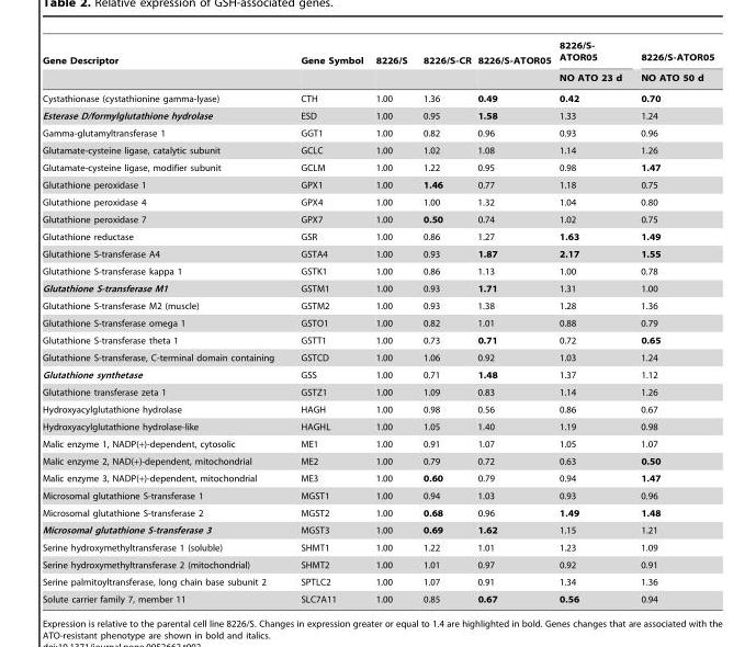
<table><thead><tr><td rowspan="2">Gene Descriptor</td><td rowspan="2">Gene Symbol</td><td rowspan="2">8226/S</td><td rowspan="2">8226/S-CR</td><td rowspan="2">8226/S-ATOR05</td><td rowspan="2">8226/S- ATOR05 NO ATO 23 d</td><td rowspan="2">8226/S-ATOR05 NO ATO 50 d</td></tr><tr></tr></thead><tbody><tr><td>Cystathionase (cystathionine gamma-lyase)</td><td>CTH</td><td>1.00</td><td>1.36</td><td>0.49</td><td>0.42</td><td>0.70</td></tr><tr><td>Esterase D/formylglutathione hydrolase</td><td>ESD</td><td>1.00</td><td>0.95</td><td>1.58</td><td>1.33</td><td>1.24</td></tr><tr><td>Gamma-glutamyltransferase 1</td><td>GGT1</td><td>1.00</td><td>0.82</td><td>0.96</td><td>0.93</td><td>0.96</td></tr><tr><td>Glutamate-cysteine ligase, catalytic subunit</td><td>GCLC</td><td>1.00</td><td>1.02</td><td>1.08</td><td>1.14</td><td>1.26</td></tr><tr><td>Glutamate-cysteine ligase, modifier subunit</td><td>GCLM</td><td>1.00</td><td>1.22</td><td>0.95</td><td>0.98</td><td>1.47</td></tr><tr><td>Glutathione peroxidase 1</td><td>GPX1</td><td>1.00</td><td>1.46</td><td>0.77</td><td>1.18</td><td>0.75</td></tr><tr><td>Glutathione peroxidase 4</td><td>GPX4</td><td>1.00</td><td>1.00</td><td>1.32</td><td>1.04</td><td>0.80</td></tr><tr><td>Glutathione peroxidase 7</td><td>GPX7</td><td>1.00</td><td>0.50</td><td>0.74</td><td>1.02</td><td>0.75</td></tr><tr><td>Glutathione reductase</td><td>GSR</td><td>1.00</td><td>0.86</td><td>1.27</td><td>1.63</td><td>1.49</td></tr><tr><td>Glutathione S-transferase A4</td><td>GSTA4</td><td>1.00</td><td>0.93</td><td>1.87</td><td>2.17</td><td>1.55</td></tr><tr><td>Glutathione S-transferase kappa 1</td><td>GSTK1</td><td>1.00</td><td>0.86</td><td>1.13</td><td>1.00</td><td>0.78</td></tr><tr><td>Glutathione S-transferase M1</td><td>GSTM1</td><td>1.00</td><td>0.93</td><td>1.71</td><td>1.31</td><td>1.00</td></tr><tr><td>Glutathione S-transferase M2 (muscle)</td><td>GSTM2</td><td>1.00</td><td>0.93</td><td>1.38</td><td>1.28</td><td>1.36</td></tr><tr><td>Glutathione S-transferase omega 1</td><td>GSTO1</td><td>1.00</td><td>0.82</td><td>1.01</td><td>0.88</td><td>0.79</td></tr><tr><td>Glutathione S-transferase theta 1</td><td>GSTT1</td><td>1.00</td><td>0.73</td><td>0.71</td><td>0.72</td><td>0.65</td></tr><tr><td>Glutathione S-transferase, C-terminal domain containing</td><td>GSTCD</td><td>1.00</td><td>1.06</td><td>0.92</td><td>1.03</td><td>1.24</td></tr><tr><td>Glutathione synthetase</td><td>GSS</td><td>1.00</td><td>0.71</td><td>1.48</td><td>1.37</td><td>1.12</td></tr><tr><td>Glutathione transferase zeta 1</td><td>GSTZ1</td><td>1.00</td><td>1.09</td><td>0.83</td><td>1.14</td><td>1.26</td></tr><tr><td>Hydroxyacylglutathione hydrolase</td><td>HAGH</td><td>1.00</td><td>0.98</td><td>0.56</td><td>0.86</td><td>0.67</td></tr><tr><td>Hydroxyacylglutathione hydrolase-like</td><td>HAGHL</td><td>1.00</td><td>1.05</td><td>1.40</td><td>1.19</td><td>0.98</td></tr><tr><td>Malic enzyme 1, NADP(+)-dependent, cytosolic</td><td>ME1</td><td>1.00</td><td>0.91</td><td>1.07</td><td>1.05</td><td>1.07</td></tr><tr><td>Malic enzyme 2, NAD(+)-dependent, mitochondrial</td><td>ME2</td><td>1.00</td><td>0.79</td><td>0.72</td><td>0.63</td><td>0.50</td></tr><tr><td>Malic enzyme 3, NADP(+)-dependent, mitochondrial</td><td>ME3</td><td>1.00</td><td>0.60</td><td>0.79</td><td>0.94</td><td>1.47</td></tr><tr><td>Microsomal glutathione S-transferase 1</td><td>MGST1</td><td>1.00</td><td>0.94</td><td>1.03</td><td>0.93</td><td>0.96</td></tr><tr><td>Microsomal glutathione S-transferase 2</td><td>MGST2</td><td>1.00</td><td>0.68</td><td>0.96</td><td>1.49</td><td>1.48</td></tr><tr><td>Microsomal glutathione S-transferase 3</td><td>MGST3</td><td>1.00</td><td>0.69</td><td>1.62</td><td>1.15</td><td>1.21</td></tr><tr><td>Serine hydroxymethyltransferase 1 (soluble)</td><td>SHMT1</td><td>1.00</td><td>1.22</td><td>1.01</td><td>1.23</td><td>1.09</td></tr><tr><td>Serine hydroxymethyltransferase 2 (mitochondrial)</td><td>SHMT2</td><td>1.00</td><td>1.01</td><td>0.97</td><td>0.92</td><td>0.91</td></tr><tr><td>Serine palmitoyltransferase, long chain base subunit 2</td><td>SPTLC2</td><td>1.00</td><td>1.07</td><td>0.91</td><td>1.34</td><td>1.36</td></tr><tr><td>Solute carrier family 7, member 11</td><td>SLC7A11</td><td>1.00</td><td>0.85</td><td>0.67</td><td>0.56</td><td>0.94</td></tr></tbody></table>